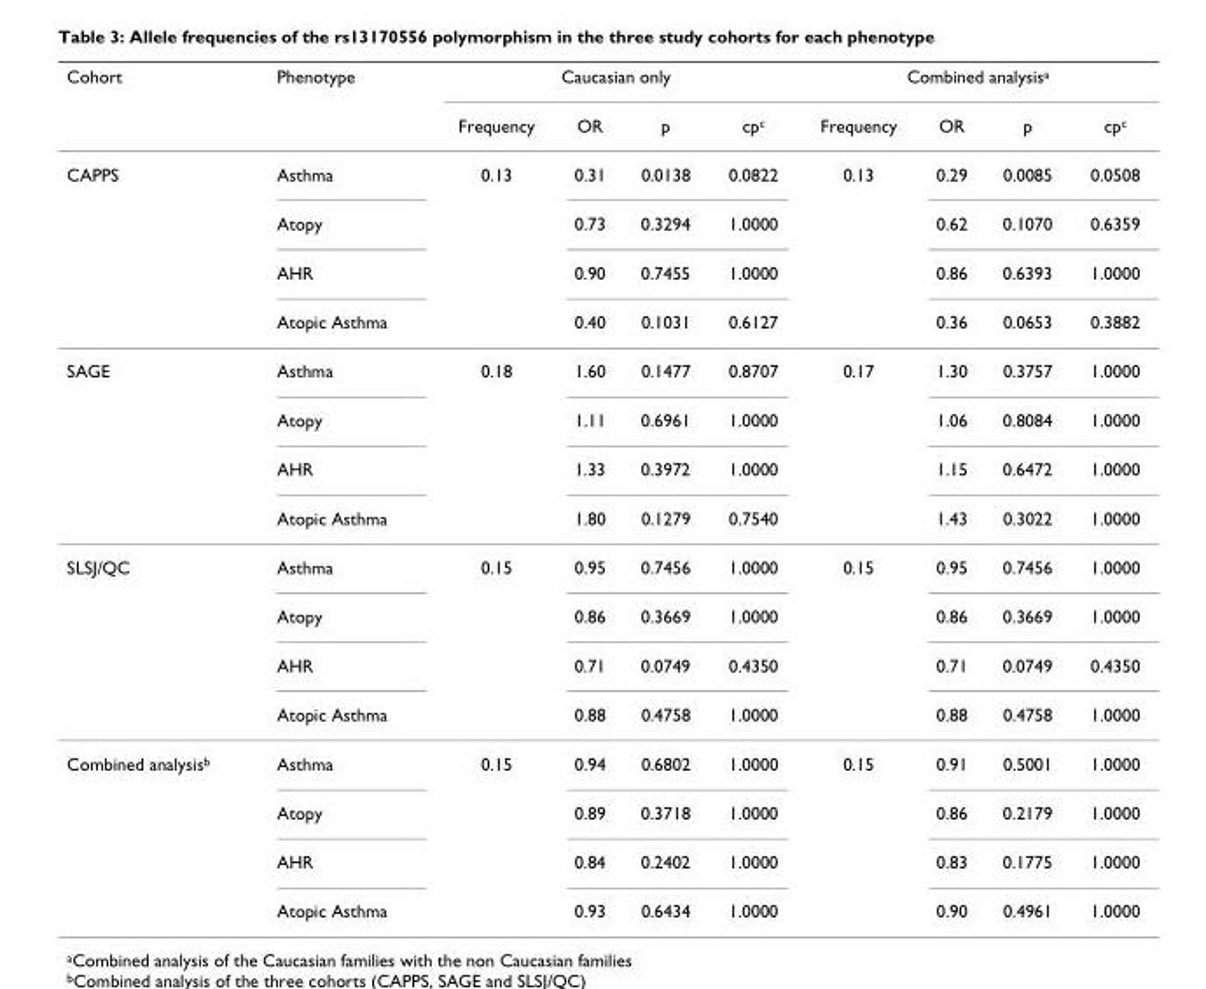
<table><thead><tr><td rowspan="2">Cohort</td><td rowspan="2">Phenotype</td><td colspan="4">Caucasian only</td><td colspan="4">Combined analysis<sup>a</sup></td></tr><tr><td>Frequency</td><td>OR</td><td>p</td><td>cp<sup>c</sup></td><td>Frequency</td><td>OR</td><td>p</td><td>cp<sup>c</sup></td></tr></thead><tbody><tr><td rowspan="4">CAPPS</td><td>Asthma</td><td>0.13</td><td>0.31</td><td>0.0138</td><td>0.0822</td><td>0.13</td><td>0.29</td><td>0.0085</td><td>0.0508</td></tr><tr><td>Atopy</td><td></td><td>0.73</td><td>0.3294</td><td>1.0000</td><td></td><td>0.62</td><td>0.1070</td><td>0.6359</td></tr><tr><td>AHR</td><td></td><td>0.90</td><td>0.7455</td><td>1.0000</td><td></td><td>0.86</td><td>0.6393</td><td>1.0000</td></tr><tr><td>Atopic Asthma</td><td></td><td>0.40</td><td>0.1031</td><td>0.6127</td><td></td><td>0.36</td><td>0.0653</td><td>0.3882</td></tr><tr><td rowspan="4">SAGE</td><td>Asthma</td><td>0.18</td><td>1.60</td><td>0.1477</td><td>0.8707</td><td>0.17</td><td>1.30</td><td>0.3757</td><td>1.0000</td></tr><tr><td>Atopy</td><td></td><td>1.11</td><td>0.6961</td><td>1.0000</td><td></td><td>1.06</td><td>0.8084</td><td>1.0000</td></tr><tr><td>AHR</td><td></td><td>1.33</td><td>0.3972</td><td>1.0000</td><td></td><td>1.15</td><td>0.6472</td><td>1.0000</td></tr><tr><td>Atopic Asthma</td><td></td><td>1.80</td><td>0.1279</td><td>0.7540</td><td></td><td>1.43</td><td>0.3022</td><td>1.0000</td></tr><tr><td rowspan="4">SLSJ/QC</td><td>Asthma</td><td>0.15</td><td>0.95</td><td>0.7456</td><td>1.0000</td><td>0.15</td><td>0.95</td><td>0.7456</td><td>1.0000</td></tr><tr><td>Atopy</td><td></td><td>0.86</td><td>0.3669</td><td>1.0000</td><td></td><td>0.86</td><td>0.3669</td><td>1.0000</td></tr><tr><td>AHR</td><td></td><td>0.71</td><td>0.0749</td><td>0.4350</td><td></td><td>0.71</td><td>0.0749</td><td>0.4350</td></tr><tr><td>Atopic Asthma</td><td></td><td>0.88</td><td>0.4758</td><td>1.0000</td><td></td><td>0.88</td><td>0.4758</td><td>1.0000</td></tr><tr><td rowspan="4">Combined analysis<sup>b</sup></td><td>Asthma</td><td>0.15</td><td>0.94</td><td>0.6802</td><td>1.0000</td><td>0.15</td><td>0.91</td><td>0.5001</td><td>1.0000</td></tr><tr><td>Atopy</td><td></td><td>0.89</td><td>0.3718</td><td>1.0000</td><td></td><td>0.86</td><td>0.2179</td><td>1.0000</td></tr><tr><td>AHR</td><td></td><td>0.84</td><td>0.2402</td><td>1.0000</td><td></td><td>0.83</td><td>0.1775</td><td>1.0000</td></tr><tr><td>Atopic Asthma</td><td></td><td>0.93</td><td>0.6434</td><td>1.0000</td><td></td><td>0.90</td><td>0.4961</td><td>1.0000</td></tr></tbody></table>